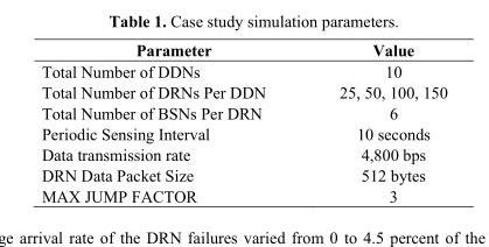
<table><thead><tr><td>Parameter</td><td>Value</td></tr></thead><tbody><tr><td>Total Number of DDNs</td><td>10</td></tr><tr><td>Total Number of DRNs Per DDN</td><td>25, 50, 100, 150</td></tr><tr><td>Total Number of BSNs Per DRN</td><td>6</td></tr><tr><td>Periodic Sensing Interval</td><td>10 seconds</td></tr><tr><td>Data transmission rate</td><td>4,800 bps</td></tr><tr><td>DRN Data Packet Size</td><td>512 bytes</td></tr><tr><td>MAX JUMP FACTOR</td><td>3</td></tr></tbody></table>